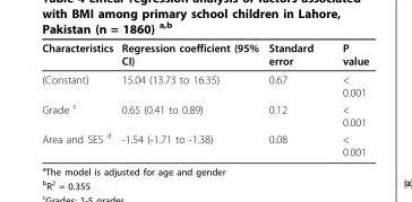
<table><thead><tr><td>Characteristics</td><td>Regression coefficient (95% CI)</td><td>Standard error</td><td>P value</td></tr></thead><tbody><tr><td>(Constant)</td><td>15.04 (13.73 to 16.35)</td><td>0.67</td><td>&lt; 0.001</td></tr><tr><td>Grade <sup>c</sup></td><td>0.65 (0.41 to 0.89)</td><td>0.12</td><td>&lt; 0.001</td></tr><tr><td>Area and SES <sup>d</sup></td><td>-1.54 (-1.71 to -1.38)</td><td>0.08</td><td>&lt; 0.001</td></tr></tbody></table>